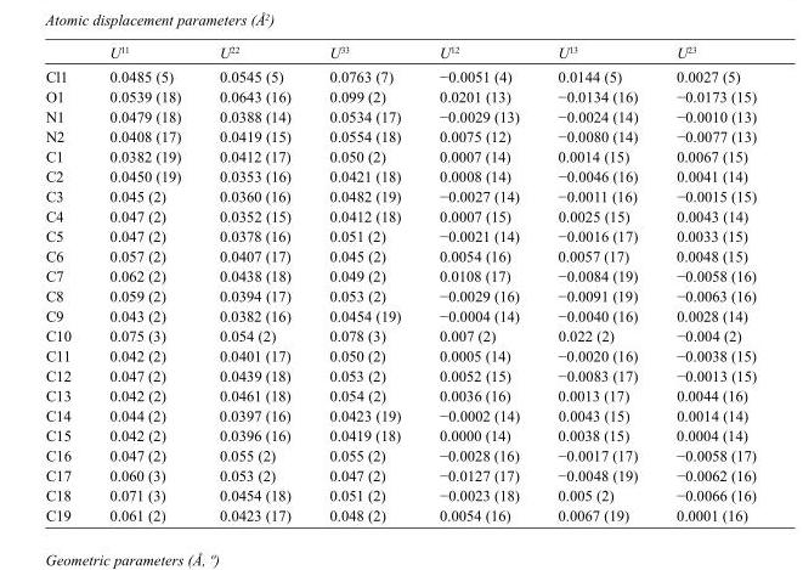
<table><thead><tr><td></td><td>U<sup>11</sup></td><td>U<sup>22</sup></td><td>U<sup>33</sup></td><td>U<sup>12</sup></td><td>U<sup>13</sup></td><td>U<sup>23</sup></td></tr></thead><tbody><tr><td>Cl1</td><td>0.0485 (5)</td><td>0.0545 (5)</td><td>0.0763 (7)</td><td>−0.0051 (4)</td><td>0.0144 (5)</td><td>0.0027 (5)</td></tr><tr><td>O1</td><td>0.0539 (18)</td><td>0.0643 (16)</td><td>0.099 (2)</td><td>0.0201 (13)</td><td>−0.0134 (16)</td><td>−0.0173 (15)</td></tr><tr><td>N1</td><td>0.0479 (18)</td><td>0.0388 (14)</td><td>0.0534 (17)</td><td>−0.0029 (13)</td><td>−0.0024 (14)</td><td>−0.0010 (13)</td></tr><tr><td>N2</td><td>0.0408 (17)</td><td>0.0419 (15)</td><td>0.0554 (18)</td><td>0.0075 (12)</td><td>−0.0080 (14)</td><td>−0.0077 (13)</td></tr><tr><td>C1</td><td>0.0382 (19)</td><td>0.0412 (17)</td><td>0.050 (2)</td><td>0.0007 (14)</td><td>0.0014 (15)</td><td>0.0067 (15)</td></tr><tr><td>C2</td><td>0.0450 (19)</td><td>0.0353 (16)</td><td>0.0421 (18)</td><td>0.0008 (14)</td><td>−0.0046 (16)</td><td>0.0041 (14)</td></tr><tr><td>C3</td><td>0.045 (2)</td><td>0.0360 (16)</td><td>0.0482 (19)</td><td>−0.0027 (14)</td><td>−0.0011 (16)</td><td>−0.0015 (15)</td></tr><tr><td>C4</td><td>0.047 (2)</td><td>0.0352 (15)</td><td>0.0412 (18)</td><td>0.0007 (15)</td><td>0.0025 (15)</td><td>0.0043 (14)</td></tr><tr><td>C5</td><td>0.047 (2)</td><td>0.0378 (16)</td><td>0.051 (2)</td><td>−0.0021 (14)</td><td>−0.0016 (17)</td><td>0.0033 (15)</td></tr><tr><td>C6</td><td>0.057 (2)</td><td>0.0407 (17)</td><td>0.045 (2)</td><td>0.0054 (16)</td><td>0.0057 (17)</td><td>0.0048 (15)</td></tr><tr><td>C7</td><td>0.062 (2)</td><td>0.0438 (18)</td><td>0.049 (2)</td><td>0.0108 (17)</td><td>−0.0084 (19)</td><td>−0.0058 (16)</td></tr><tr><td>C8</td><td>0.059 (2)</td><td>0.0394 (17)</td><td>0.053 (2)</td><td>−0.0029 (16)</td><td>−0.0091 (19)</td><td>−0.0063 (16)</td></tr><tr><td>C9</td><td>0.043 (2)</td><td>0.0382 (16)</td><td>0.0454 (19)</td><td>−0.0004 (14)</td><td>−0.0040 (16)</td><td>0.0028 (14)</td></tr><tr><td>C10</td><td>0.075 (3)</td><td>0.054 (2)</td><td>0.078 (3)</td><td>0.007 (2)</td><td>0.022 (2)</td><td>−0.004 (2)</td></tr><tr><td>C11</td><td>0.042 (2)</td><td>0.0401 (17)</td><td>0.050 (2)</td><td>0.0005 (14)</td><td>−0.0020 (16)</td><td>−0.0038 (15)</td></tr><tr><td>C12</td><td>0.047 (2)</td><td>0.0439 (18)</td><td>0.053 (2)</td><td>0.0052 (15)</td><td>−0.0083 (17)</td><td>−0.0013 (15)</td></tr><tr><td>C13</td><td>0.042 (2)</td><td>0.0461 (18)</td><td>0.054 (2)</td><td>0.0036 (16)</td><td>0.0013 (17)</td><td>0.0044 (16)</td></tr><tr><td>C14</td><td>0.044 (2)</td><td>0.0397 (16)</td><td>0.0423 (19)</td><td>−0.0002 (14)</td><td>0.0043 (15)</td><td>0.0014 (14)</td></tr><tr><td>C15</td><td>0.042 (2)</td><td>0.0396 (16)</td><td>0.0419 (18)</td><td>0.0000 (14)</td><td>0.0038 (15)</td><td>0.0004 (14)</td></tr><tr><td>C16</td><td>0.047 (2)</td><td>0.055 (2)</td><td>0.055 (2)</td><td>−0.0028 (16)</td><td>−0.0017 (17)</td><td>−0.0058 (17)</td></tr><tr><td>C17</td><td>0.060 (3)</td><td>0.053 (2)</td><td>0.047 (2)</td><td>−0.0127 (17)</td><td>−0.0048 (19)</td><td>−0.0062 (16)</td></tr><tr><td>C18</td><td>0.071 (3)</td><td>0.0454 (18)</td><td>0.051 (2)</td><td>−0.0023 (18)</td><td>0.005 (2)</td><td>−0.0066 (16)</td></tr><tr><td>C19</td><td>0.061 (2)</td><td>0.0423 (17)</td><td>0.048 (2)</td><td>0.0054 (16)</td><td>0.0067 (19)</td><td>0.0001 (16)</td></tr></tbody></table>